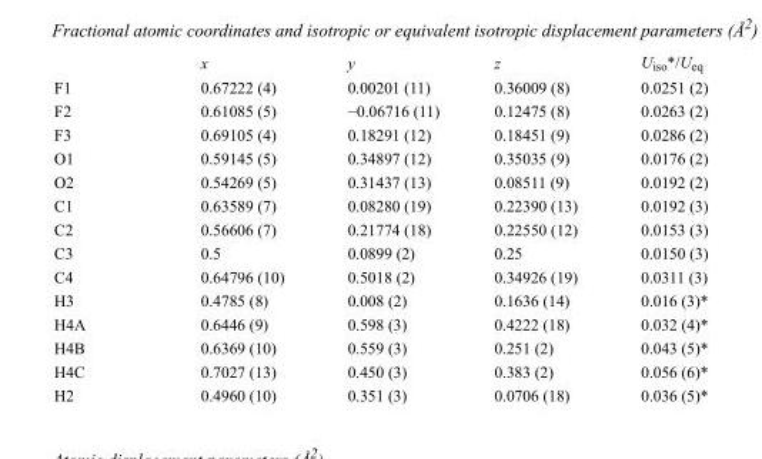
<table><thead><tr><td></td><td>x</td><td>y</td><td>z</td><td>U<sub>iso</sub>*/U<sub>eq</sub></td></tr></thead><tbody><tr><td>F1</td><td>0.67222 (4)</td><td>0.00201 (11)</td><td>0.36009 (8)</td><td>0.0251 (2)</td></tr><tr><td>F2</td><td>0.61085 (5)</td><td>−0.06716 (11)</td><td>0.12475 (8)</td><td>0.0263 (2)</td></tr><tr><td>F3</td><td>0.69105 (4)</td><td>0.18291 (12)</td><td>0.18451 (9)</td><td>0.0286 (2)</td></tr><tr><td>O1</td><td>0.59145 (5)</td><td>0.34897 (12)</td><td>0.35035 (9)</td><td>0.0176 (2)</td></tr><tr><td>O2</td><td>0.54269 (5)</td><td>0.31437 (13)</td><td>0.08511 (9)</td><td>0.0192 (2)</td></tr><tr><td>C1</td><td>0.63589 (7)</td><td>0.08280 (19)</td><td>0.22390 (13)</td><td>0.0192 (3)</td></tr><tr><td>C2</td><td>0.56606 (7)</td><td>0.21774 (18)</td><td>0.22550 (12)</td><td>0.0153 (3)</td></tr><tr><td>C3</td><td>0.5</td><td>0.0899 (2)</td><td>0.25</td><td>0.0150 (3)</td></tr><tr><td>C4</td><td>0.64796 (10)</td><td>0.5018 (2)</td><td>0.34926 (19)</td><td>0.0311 (3)</td></tr><tr><td>H3</td><td>0.4785 (8)</td><td>0.008 (2)</td><td>0.1636 (14)</td><td>0.016 (3)*</td></tr><tr><td>H4A</td><td>0.6446 (9)</td><td>0.598 (3)</td><td>0.4222 (18)</td><td>0.032 (4)*</td></tr><tr><td>H4B</td><td>0.6369 (10)</td><td>0.559 (3)</td><td>0.251 (2)</td><td>0.043 (5)*</td></tr><tr><td>H4C</td><td>0.7027 (13)</td><td>0.450 (3)</td><td>0.383 (2)</td><td>0.056 (6)*</td></tr><tr><td>H2</td><td>0.4960 (10)</td><td>0.351 (3)</td><td>0.0706 (18)</td><td>0.036 (5)*</td></tr></tbody></table>